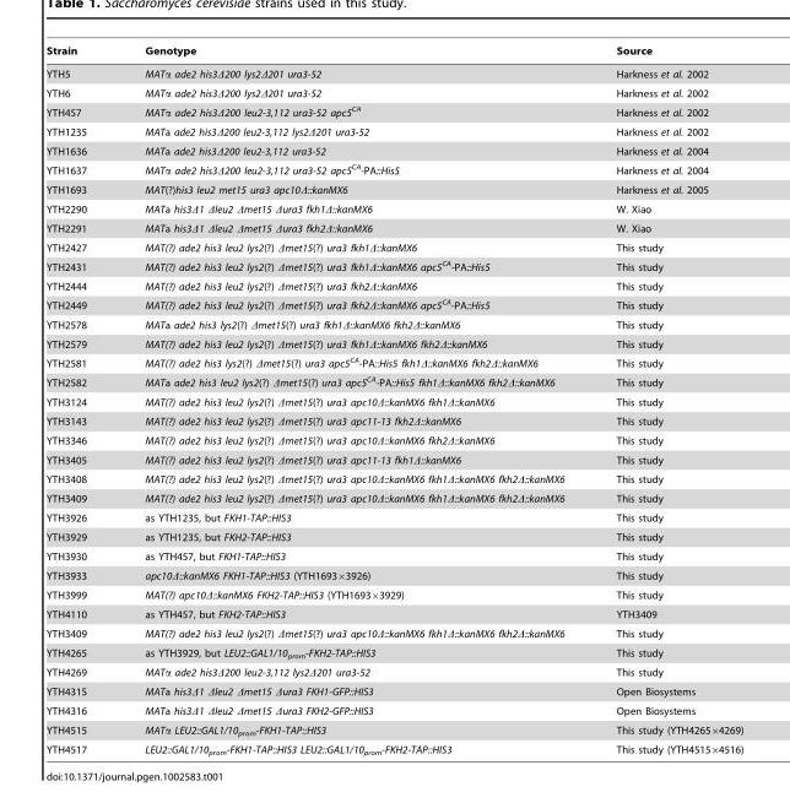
<table><thead><tr><td>Strain</td><td>Genotype</td><td>Source</td></tr></thead><tbody><tr><td>YTH5</td><td>MATα ade2 his3Δ200 lys2Δ201 ura3-52</td><td>Harkness et al. 2002</td></tr><tr><td>YTH6</td><td>MATα ade2 his3Δ200 lys2Δ201 ura3-52</td><td>Harkness et al. 2002</td></tr><tr><td>YTH457</td><td>MATα ade2 his3Δ200 leu2-3,112 ura3-52 apc5<sup>CA</sup></td><td>Harkness et al. 2002</td></tr><tr><td>YTH1235</td><td>MATa ade2 his3Δ200 leu2-3,112 lys2Δ201 ura3-52</td><td>Harkness et al. 2002</td></tr><tr><td>YTH1636</td><td>MATa ade2 his3Δ200 leu2-3,112 ura3-52</td><td>Harkness et al. 2004</td></tr><tr><td>YTH1637</td><td>MATα ade2 his3Δ200 leu2-3,112 ura3-52 apc5<sup>CA</sup>-PA::His5</td><td>Harkness et al. 2004</td></tr><tr><td>YTH1693</td><td>MAT(?)his3 leu2 met15 ura3 apc10Δ::kanMX6</td><td>Harkness et al. 2005</td></tr><tr><td>YTH2290</td><td>MATa his3Δ1 Δleu2 Δmet15 Δura3 fkh1Δ::kanMX6</td><td>W. Xiao</td></tr><tr><td>YTH2291</td><td>MATa his3Δ1 Δleu2 Δmet15 Δura3 fkh2Δ::kanMX6</td><td>W. Xiao</td></tr><tr><td>YTH2427</td><td>MAT(?) ade2 his3 leu2 lys2(?) Δmet15(?) ura3 fkh1Δ::kanMX6</td><td>This study</td></tr><tr><td>YTH2431</td><td>MAT(?) ade2 his3 leu2 lys2(?) Δmet15(?) ura3 fkh1Δ::kanMX6 apc5<sup>CA</sup>-PA::His5</td><td>This study</td></tr><tr><td>YTH2444</td><td>MAT(?) ade2 his3 leu2 lys2(?) Δmet15(?) ura3 fkh2Δ::kanMX6</td><td>This study</td></tr><tr><td>YTH2449</td><td>MAT(?) ade2 his3 leu2 lys2(?) Δmet15(?) ura3 fkh2Δ::kanMX6 apc5<sup>CA</sup>-PA::His5</td><td>This study</td></tr><tr><td>YTH2578</td><td>MATa ade2 his3 lys2(?) Δmet15(?) ura3 fkh1Δ::kanMX6 fkh2Δ::kanMX6</td><td>This study</td></tr><tr><td>YTH2579</td><td>MAT(?) ade2 his3 leu2 lys2(?) Δmet15(?) ura3 fkh1Δ::kanMX6 fkh2Δ::kanMX6</td><td>This study</td></tr><tr><td>YTH2581</td><td>MAT(?) ade2 his3 lys2(?) Δmet15(?) ura3 apc5<sup>CA</sup>-PA::His5 fkh1Δ::kanMX6 fkh2Δ::kanMX6</td><td>This study</td></tr><tr><td>YTH2582</td><td>MATa ade2 his3 leu2 lys2(?) Δmet15(?) ura3 apc5<sup>CA</sup>-PA::His5 fkh1Δ::kanMX6 fkh2Δ::kanMX6</td><td>This study</td></tr><tr><td>YTH3124</td><td>MAT(?) ade2 his3 leu2 lys2(?) Δmet15(?) ura3 apc10Δ::kanMX6 fkh1Δ::kanMX6</td><td>This study</td></tr><tr><td>YTH3143</td><td>MAT(?) ade2 his3 leu2 lys2(?) Δmet15(?) ura3 apc11-13 fkh2Δ::kanMX6</td><td>This study</td></tr><tr><td>YTH3346</td><td>MAT(?) ade2 his3 leu2 lys2(?) Δmet15(?) ura3 apc10Δ::kanMX6 fkh2Δ::kanMX6</td><td>This study</td></tr><tr><td>YTH3405</td><td>MAT(?) ade2 his3 leu2 lys2(?) Δmet15(?) ura3 apc11-13 fkh1Δ::kanMX6</td><td>This study</td></tr><tr><td>YTH3408</td><td>MAT(?) ade2 his3 leu2 lys2(?) Δmet15(?) ura3 apc10Δ::kanMX6 fkh1Δ::kanMX6 fkh2Δ::kanMX6</td><td>This study</td></tr><tr><td>YTH3409</td><td>MAT(?) ade2 his3 leu2 lys2(?) Δmet15(?) ura3 apc10Δ::kanMX6 fkh1Δ::kanMX6 fkh2Δ::kanMX6</td><td>This study</td></tr><tr><td>YTH3926</td><td>as YTH1235, but FKH1-TAP::HIS3</td><td>This study</td></tr><tr><td>YTH3929</td><td>as YTH1235, but FKH2-TAP::HIS3</td><td>This study</td></tr><tr><td>YTH3930</td><td>as YTH457, but FKH1-TAP::HIS3</td><td>This study</td></tr><tr><td>YTH3933</td><td>apc10Δ::kanMX6 FKH1-TAP::HIS3 (YTH1693×3926)</td><td>This study</td></tr><tr><td>YTH3999</td><td>MAT(?) apc10Δ::kanMX6 FKH2-TAP::HIS3 (YTH1693×3929)</td><td>This study</td></tr><tr><td>YTH4110</td><td>as YTH457, but FKH2-TAP::HIS3</td><td>YTH3409</td></tr><tr><td>YTH3409</td><td>MAT(?) ade2 his3 leu2 lys2(?) Δmet15(?) ura3 apc10Δ::kanMX6 fkh1Δ::kanMX6 fkh2Δ::kanMX6</td><td>This study</td></tr><tr><td>YTH4265</td><td>as YTH3929, but LEU2::GAL1/10<sub>prom</sub>-FKH2-TAP::HIS3</td><td>This study</td></tr><tr><td>YTH4269</td><td>MATα ade2 his3Δ200 leu2-3,112 lys2Δ201 ura3-52</td><td>This study</td></tr><tr><td>YTH4315</td><td>MATa his3Δ1 Δleu2 Δmet15 Δura3 FKH1-GFP::HIS3</td><td>Open Biosystems</td></tr><tr><td>YTH4316</td><td>MATa his3Δ1 Δleu2 Δmet15 Δura3 FKH2-GFP::HIS3</td><td>Open Biosystems</td></tr><tr><td>YTH4515</td><td>MATα LEU2::GAL1/10<sub>prom</sub>-FKH1-TAP::HIS3</td><td>This study (YTH4265×4269)</td></tr><tr><td>YTH4517</td><td>LEU2::GAL1/10<sub>prom</sub>-FKH1-TAP::HIS3 LEU2::GAL1/10<sub>prom</sub>-FKH2-TAP::HIS3</td><td>This study (YTH4515×4516)</td></tr></tbody></table>